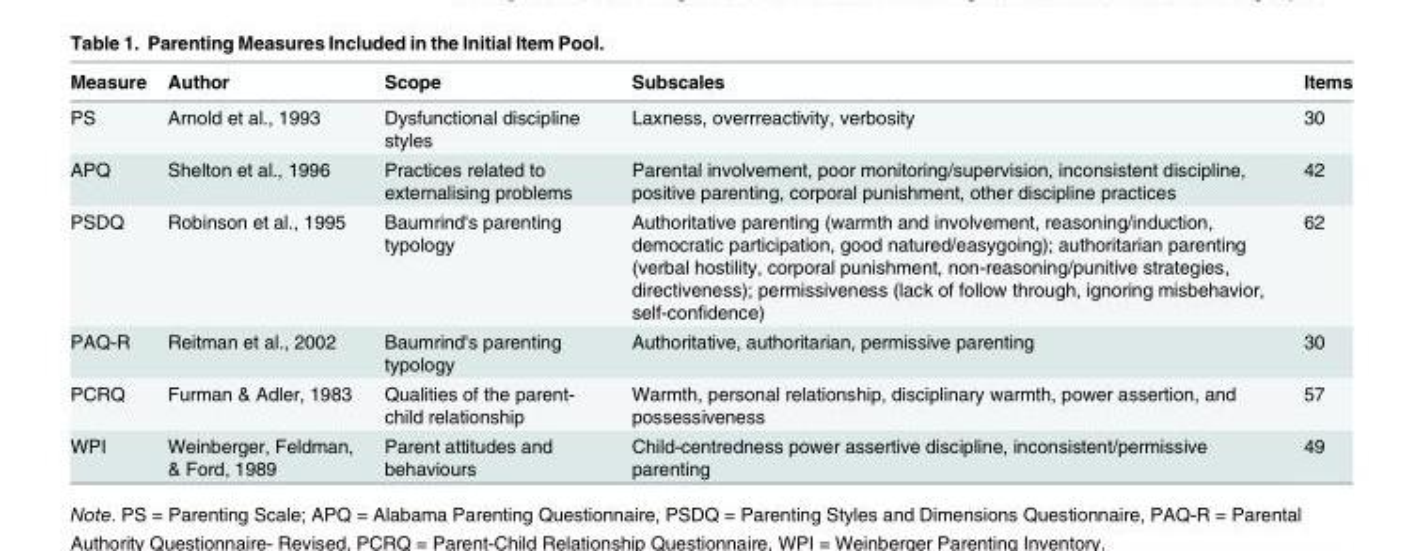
<table><thead><tr><td>Measure</td><td>Author</td><td>Scope</td><td>Subscales</td><td>Items</td></tr></thead><tbody><tr><td>PS</td><td>Arnold et al., 1993</td><td>Dysfunctional discipline styles</td><td>Laxness, overrreactivity, verbosity</td><td>30</td></tr><tr><td>APQ</td><td>Shelton et al., 1996</td><td>Practices related to externalising problems</td><td>Parental involvement, poor monitoring/supervision, inconsistent discipline, positive parenting, corporal punishment, other discipline practices</td><td>42</td></tr><tr><td>PSDQ</td><td>Robinson et al., 1995</td><td>Baumrind&#x27;s parenting typology</td><td>Authoritative parenting (warmth and involvement, reasoning/induction, democratic participation, good natured/easygoing); authoritarian parenting (verbal hostility, corporal punishment, non-reasoning/punitive strategies, directiveness); permissiveness (lack of follow through, ignoring misbehavior, self-confidence)</td><td>62</td></tr><tr><td>PAQ-R</td><td>Reitman et al., 2002</td><td>Baumrind&#x27;s parenting typology</td><td>Authoritative, authoritarian, permissive parenting</td><td>30</td></tr><tr><td>PCRQ</td><td>Furman &amp; Adler, 1983</td><td>Qualities of the parent- child relationship</td><td>Warmth, personal relationship, disciplinary warmth, power assertion, and possessiveness</td><td>57</td></tr><tr><td>WPI</td><td>Weinberger, Feldman, &amp; Ford, 1989</td><td>Parent attitudes and behaviours</td><td>Child-centredness power assertive discipline, inconsistent/permissive parenting</td><td>49</td></tr></tbody></table>